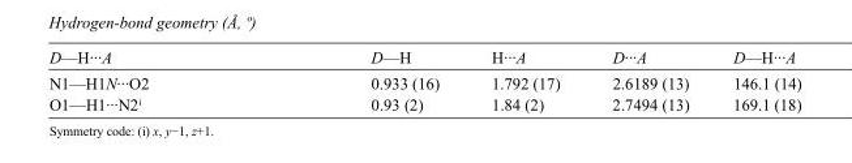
<table><tbody><tr><td>D—H···A</td><td>D—H</td><td>H···A</td><td>D···A</td><td>D—H···A</td></tr><tr><td>N1—H1N···O2</td><td>0.933 (16)</td><td>1.792 (17)</td><td>2.6189 (13)</td><td>146.1 (14)</td></tr><tr><td>O1—H1···N2<sup>i</sup></td><td>0.93 (2)</td><td>1.84 (2)</td><td>2.7494 (13)</td><td>169.1 (18)</td></tr></tbody></table>